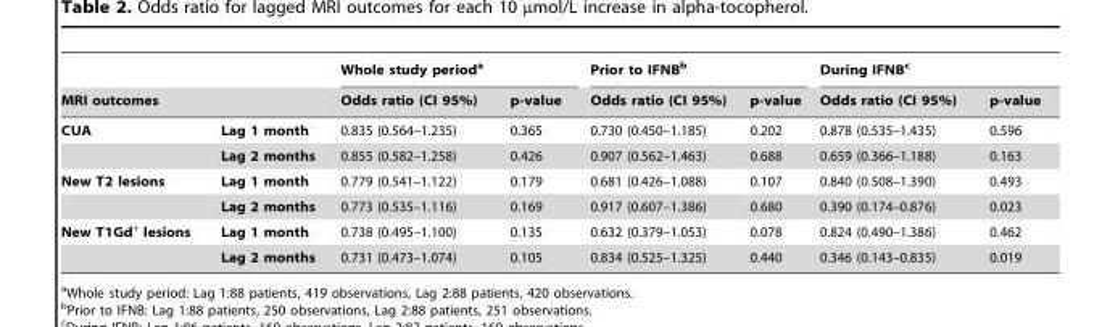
<table><thead><tr><td></td><td></td><td colspan="2">Whole study period<sup>a</sup></td><td colspan="2">Prior to IFNB<sup>b</sup></td><td colspan="2">During IFNB<sup>c</sup></td></tr><tr><td colspan="2">MRI outcomes</td><td>Odds ratio (CI 95%)</td><td>p-value</td><td>Odds ratio (CI 95%)</td><td>p-value</td><td>Odds ratio (CI 95%)</td><td>p-value</td></tr></thead><tbody><tr><td rowspan="2">CUA</td><td>Lag 1 month</td><td>0.835 (0.564–1.235)</td><td>0.365</td><td>0.730 (0.450–1.185)</td><td>0.202</td><td>0.878 (0.535–1.435)</td><td>0.596</td></tr><tr><td>Lag 2 months</td><td>0.855 (0.582–1.258)</td><td>0.426</td><td>0.907 (0.562–1.463)</td><td>0.688</td><td>0.659 (0.366–1.188)</td><td>0.163</td></tr><tr><td rowspan="2">New T2 lesions</td><td>Lag 1 month</td><td>0.779 (0.541–1.122)</td><td>0.179</td><td>0.681 (0.426–1.088)</td><td>0.107</td><td>0.840 (0.508–1.390)</td><td>0.493</td></tr><tr><td>Lag 2 months</td><td>0.773 (0.535–1.116)</td><td>0.169</td><td>0.917 (0.607–1.386)</td><td>0.680</td><td>0.390 (0.174–0.876)</td><td>0.023</td></tr><tr><td rowspan="2">New T1Gd<sup>+</sup> lesions</td><td>Lag 1 month</td><td>0.738 (0.495–1.100)</td><td>0.135</td><td>0.632 (0.379–1.053)</td><td>0.078</td><td>0.824 (0.490–1.386)</td><td>0.462</td></tr><tr><td>Lag 2 months</td><td>0.731 (0.473–1.074)</td><td>0.105</td><td>0.834 (0.525–1.325)</td><td>0.440</td><td>0.346 (0.143–0.835)</td><td>0.019</td></tr></tbody></table>